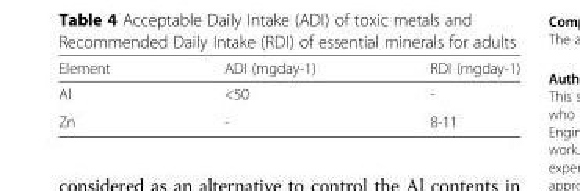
<table><thead><tr><td>Element</td><td>ADI (mgday-1)</td><td>RDI (mgday-1)</td></tr></thead><tbody><tr><td>Al</td><td>&lt;50</td><td>-</td></tr><tr><td>Zn</td><td>-</td><td>8-11</td></tr></tbody></table>